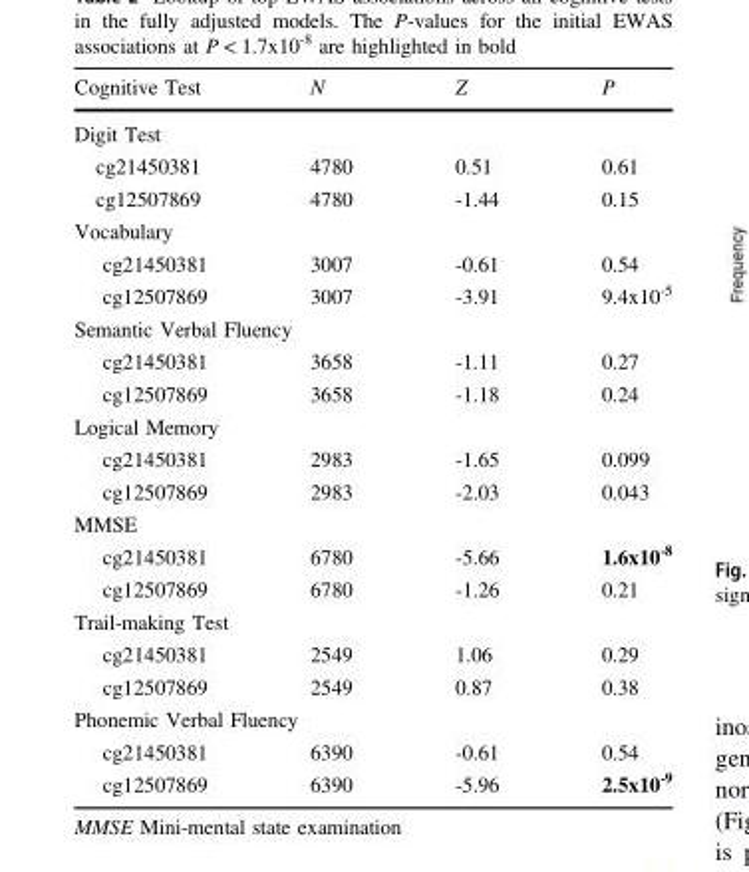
<table><thead><tr><td>Cognitive Test</td><td>N</td><td>Z</td><td>P</td></tr></thead><tbody><tr><td colspan="4">Digit Test</td></tr><tr><td>cg21450381</td><td>4780</td><td>0.51</td><td>0.61</td></tr><tr><td>cg12507869</td><td>4780</td><td>-1.44</td><td>0.15</td></tr><tr><td colspan="4">Vocabulary</td></tr><tr><td>cg21450381</td><td>3007</td><td>-0.61</td><td>0.54</td></tr><tr><td>cg12507869</td><td>3007</td><td>-3.91</td><td>9.4x10<sup>-5</sup></td></tr><tr><td colspan="4">Semantic Verbal Fluency</td></tr><tr><td>cg21450381</td><td>3658</td><td>-1.11</td><td>0.27</td></tr><tr><td>cg12507869</td><td>3658</td><td>-1.18</td><td>0.24</td></tr><tr><td colspan="4">Logical Memory</td></tr><tr><td>cg21450381</td><td>2983</td><td>-1.65</td><td>0.099</td></tr><tr><td>cg12507869</td><td>2983</td><td>-2.03</td><td>0.043</td></tr><tr><td colspan="4">MMSE</td></tr><tr><td>cg21450381</td><td>6780</td><td>-5.66</td><td>1.6x10<sup>-8</sup></td></tr><tr><td>cg12507869</td><td>6780</td><td>-1.26</td><td>0.21</td></tr><tr><td colspan="4">Trail-making Test</td></tr><tr><td>cg21450381</td><td>2549</td><td>1.06</td><td>0.29</td></tr><tr><td>cg12507869</td><td>2549</td><td>0.87</td><td>0.38</td></tr><tr><td colspan="4">Phonemic Verbal Fluency</td></tr><tr><td>cg21450381</td><td>6390</td><td>-0.61</td><td>0.54</td></tr><tr><td>cg12507869</td><td>6390</td><td>-5.96</td><td>2.5x10<sup>-9</sup></td></tr></tbody></table>